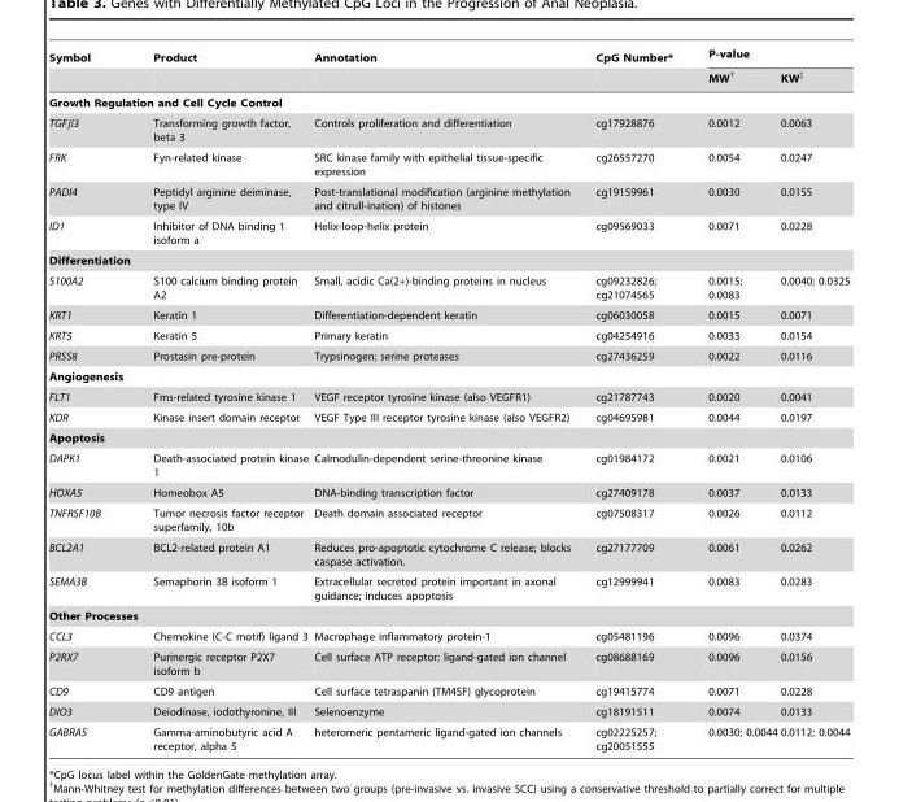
<table><thead><tr><td rowspan="2">Symbol</td><td rowspan="2">Product</td><td rowspan="2">Annotation</td><td rowspan="2">CpG Number*</td><td colspan="2">P-value</td></tr><tr><td>MW†</td><td>KW‡</td></tr></thead><tbody><tr><td colspan="6">Growth Regulation and Cell Cycle Control</td></tr><tr><td>TGFβ3</td><td>Transforming growth factor, beta 3</td><td>Controls proliferation and differentiation</td><td>cg17928876</td><td>0.0012</td><td>0.0063</td></tr><tr><td>FRK</td><td>Fyn-related kinase</td><td>SRC kinase family with epithelial tissue-specific expression</td><td>cg26557270</td><td>0.0054</td><td>0.0247</td></tr><tr><td>PADI4</td><td>Peptidyl arginine deiminase, type IV</td><td>Post-translational modification (arginine methylation and citrull-ination) of histones</td><td>cg19159961</td><td>0.0030</td><td>0.0155</td></tr><tr><td>ID1</td><td>Inhibitor of DNA binding 1 isoform a</td><td>Helix-loop-helix protein</td><td>cg09569033</td><td>0.0071</td><td>0.0228</td></tr><tr><td colspan="6">Differentiation</td></tr><tr><td>S100A2</td><td>S100 calcium binding protein A2</td><td>Small, acidic Ca(2+)-binding proteins in nucleus</td><td>cg09232826; cg21074565</td><td>0.0015; 0.0083</td><td>0.0040; 0.0325</td></tr><tr><td>KRT1</td><td>Keratin 1</td><td>Differentiation-dependent keratin</td><td>cg06030058</td><td>0.0015</td><td>0.0071</td></tr><tr><td>KRT5</td><td>Keratin 5</td><td>Primary keratin</td><td>cg04254916</td><td>0.0033</td><td>0.0154</td></tr><tr><td>PRSS8</td><td>Prostasin pre-protein</td><td>Trypsinogen; serine proteases</td><td>cg27436259</td><td>0.0022</td><td>0.0116</td></tr><tr><td colspan="6">Angiogenesis</td></tr><tr><td>FLT1</td><td>Fms-related tyrosine kinase 1</td><td>VEGF receptor tyrosine kinase (also VEGFR1)</td><td>cg21787743</td><td>0.0020</td><td>0.0041</td></tr><tr><td>KDR</td><td>Kinase insert domain receptor</td><td>VEGF Type III receptor tyrosine kinase (also VEGFR2)</td><td>cg04695981</td><td>0.0044</td><td>0.0197</td></tr><tr><td colspan="6">Apoptosis</td></tr><tr><td>DAPK1</td><td>Death-associated protein kinase 1</td><td>Calmodulin-dependent serine-threonine kinase</td><td>cg01984172</td><td>0.0021</td><td>0.0106</td></tr><tr><td>HOXA5</td><td>Homeobox A5</td><td>DNA-binding transcription factor</td><td>cg27409178</td><td>0.0037</td><td>0.0133</td></tr><tr><td>TNFRSF10B</td><td>Tumor necrosis factor receptor superfamily, 10b</td><td>Death domain associated receptor</td><td>cg07508317</td><td>0.0026</td><td>0.0112</td></tr><tr><td>BCL2A1</td><td>BCL2-related protein A1</td><td>Reduces pro-apoptotic cytochrome C release; blocks caspase activation.</td><td>cg27177709</td><td>0.0061</td><td>0.0262</td></tr><tr><td>SEMA3B</td><td>Semaphorin 3B isoform 1</td><td>Extracellular secreted protein important in axonal guidance; induces apoptosis</td><td>cg12999941</td><td>0.0083</td><td>0.0283</td></tr><tr><td colspan="6">Other Processes</td></tr><tr><td>CCL3</td><td>Chemokine (C-C motif) ligand 3</td><td>Macrophage inflammatory protein-1</td><td>cg05481196</td><td>0.0096</td><td>0.0374</td></tr><tr><td>P2RX7</td><td>Purinergic receptor P2X7 isoform b</td><td>Cell surface ATP receptor; ligand-gated ion channel</td><td>cg08688169</td><td>0.0096</td><td>0.0156</td></tr><tr><td>CD9</td><td>CD9 antigen</td><td>Cell surface tetraspanin (TM4SF) glycoprotein</td><td>cg19415774</td><td>0.0071</td><td>0.0228</td></tr><tr><td>DIO3</td><td>Deiodinase, iodothyronine, III</td><td>Selenoenzyme</td><td>cg18191511</td><td>0.0074</td><td>0.0133</td></tr><tr><td>GABRA5</td><td>Gamma-aminobutyric acid A receptor, alpha 5</td><td>heteromeric pentameric ligand-gated ion channels</td><td>cg02225257; cg20051555</td><td>0.0030; 0.0044</td><td>0.0112; 0.0044</td></tr></tbody></table>